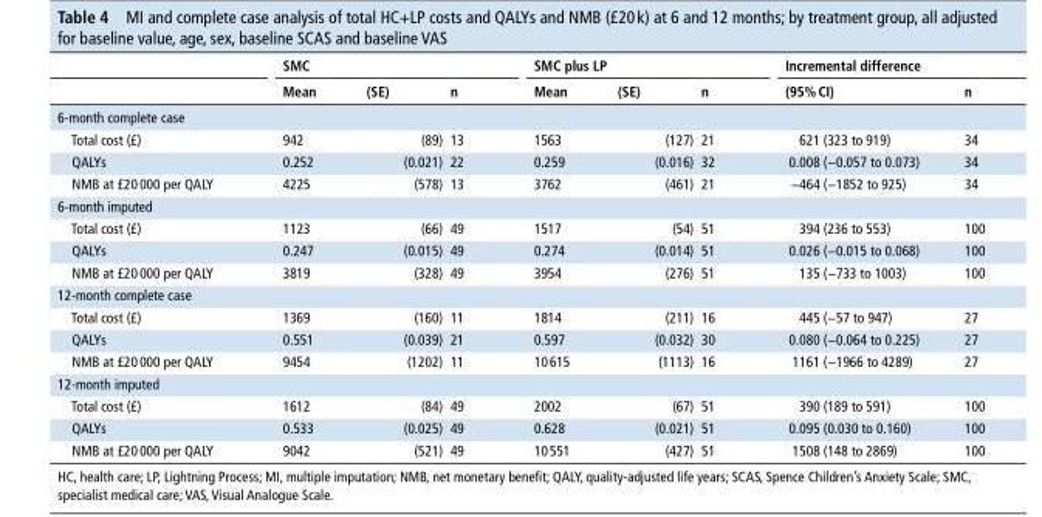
<table><thead><tr><td rowspan="2"></td><td colspan="3">sMc</td><td colspan="3">sMc plus lP</td><td colspan="2">Incremental difference</td></tr><tr><td>Mean</td><td>(se)</td><td>n</td><td>Mean</td><td>(se)</td><td>n</td><td>(95% cI)</td><td>n</td></tr></thead><tbody><tr><td colspan="9">6-month complete case</td></tr><tr><td>Total cost (£)</td><td>942</td><td>(89)</td><td>13</td><td>1563</td><td>(127)</td><td>21</td><td>621 (323 to 919)</td><td>34</td></tr><tr><td>QALYs</td><td>0.252</td><td>(0.021)</td><td>22</td><td>0.259</td><td>(0.016)</td><td>32</td><td>0.008 (−0.057 to 0.073)</td><td>34</td></tr><tr><td>NMB at £20 000 per QALY</td><td>4225</td><td>(578)</td><td>13</td><td>3762</td><td>(461)</td><td>21</td><td>−464 (−1852 to 925)</td><td>34</td></tr><tr><td colspan="9">6-month imputed</td></tr><tr><td>Total cost (£)</td><td>1123</td><td>(66)</td><td>49</td><td>1517</td><td>(54)</td><td>51</td><td>394 (236 to 553)</td><td>100</td></tr><tr><td>QALYs</td><td>0.247</td><td>(0.015)</td><td>49</td><td>0.274</td><td>(0.014)</td><td>51</td><td>0.026 (−0.015 to 0.068)</td><td>100</td></tr><tr><td>NMB at £20 000 per QALY</td><td>3819</td><td>(328)</td><td>49</td><td>3954</td><td>(276)</td><td>51</td><td>135 (−733 to 1003)</td><td>100</td></tr><tr><td colspan="9">12-month complete case</td></tr><tr><td>Total cost (£)</td><td>1369</td><td>(160)</td><td>11</td><td>1814</td><td>(211)</td><td>16</td><td>445 (−57 to 947)</td><td>27</td></tr><tr><td>QALYs</td><td>0.551</td><td>(0.039)</td><td>21</td><td>0.597</td><td>(0.032)</td><td>30</td><td>0.080 (−0.064 to 0.225)</td><td>27</td></tr><tr><td>NMB at £20 000 per QALY</td><td>9454</td><td>(1202)</td><td>11</td><td>10 615</td><td>(1113)</td><td>16</td><td>1161 (−1966 to 4289)</td><td>27</td></tr><tr><td colspan="9">12-month imputed</td></tr><tr><td>Total cost (£)</td><td>1612</td><td>(84)</td><td>49</td><td>2002</td><td>(67)</td><td>51</td><td>390 (189 to 591)</td><td>100</td></tr><tr><td>QALYs</td><td>0.533</td><td>(0.025)</td><td>49</td><td>0.628</td><td>(0.021)</td><td>51</td><td>0.095 (0.030 to 0.160)</td><td>100</td></tr><tr><td>NMB at £20 000 per QALY</td><td>9042</td><td>(521)</td><td>49</td><td>10 551</td><td>(427)</td><td>51</td><td>1508 (148 to 2869)</td><td>100</td></tr></tbody></table>